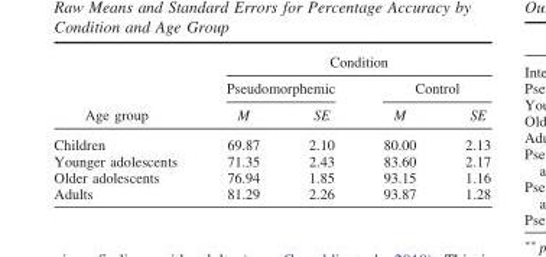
<table><thead><tr><td rowspan="3">Age group</td><td colspan="4">Condition</td></tr><tr><td colspan="2">Pseudomorphemic</td><td colspan="2">Control</td></tr><tr><td>M</td><td>SE</td><td>M</td><td>SE</td></tr></thead><tbody><tr><td>Children</td><td>69.87</td><td>2.10</td><td>80.00</td><td>2.13</td></tr><tr><td>Younger adolescents</td><td>71.35</td><td>2.43</td><td>83.60</td><td>2.17</td></tr><tr><td>Older adolescents</td><td>76.94</td><td>1.85</td><td>93.15</td><td>1.16</td></tr><tr><td>Adults</td><td>81.29</td><td>2.26</td><td>93.87</td><td>1.28</td></tr></tbody></table>